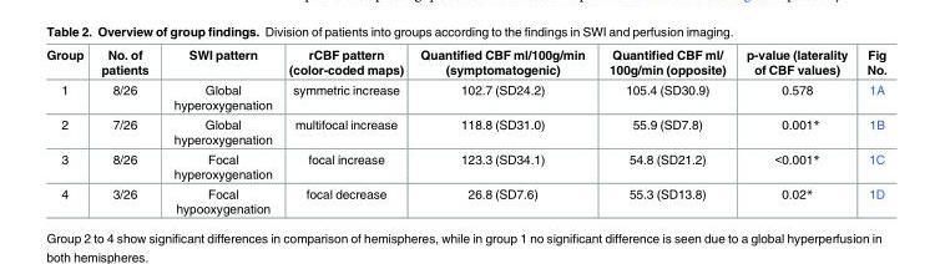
<table><thead><tr><td>Group</td><td>No. of patients</td><td>SWI pattern</td><td>rCBF pattern (color-coded maps)</td><td>Quantified CBF ml/100g/min (symptomatogenic)</td><td>Quantified CBF ml/ 100g/min (opposite)</td><td>p-value (laterality of CBF values)</td><td>Fig No.</td></tr></thead><tbody><tr><td>1</td><td>8/26</td><td>Global hyperoxygenation</td><td>symmetric increase</td><td>102.7 (SD24.2)</td><td>105.4 (SD30.9)</td><td>0.578</td><td>1A</td></tr><tr><td>2</td><td>7/26</td><td>Global hyperoxygenation</td><td>multifocal increase</td><td>118.8 (SD31.0)</td><td>55.9 (SD7.8)</td><td>0.001*</td><td>1B</td></tr><tr><td>3</td><td>8/26</td><td>Focal hyperoxygenation</td><td>focal increase</td><td>123.3 (SD34.1)</td><td>54.8 (SD21.2)</td><td>&lt;0.001*</td><td>1C</td></tr><tr><td>4</td><td>3/26</td><td>Focal hypooxygenation</td><td>focal decrease</td><td>26.8 (SD7.6)</td><td>55.3 (SD13.8)</td><td>0.02*</td><td>1D</td></tr></tbody></table>